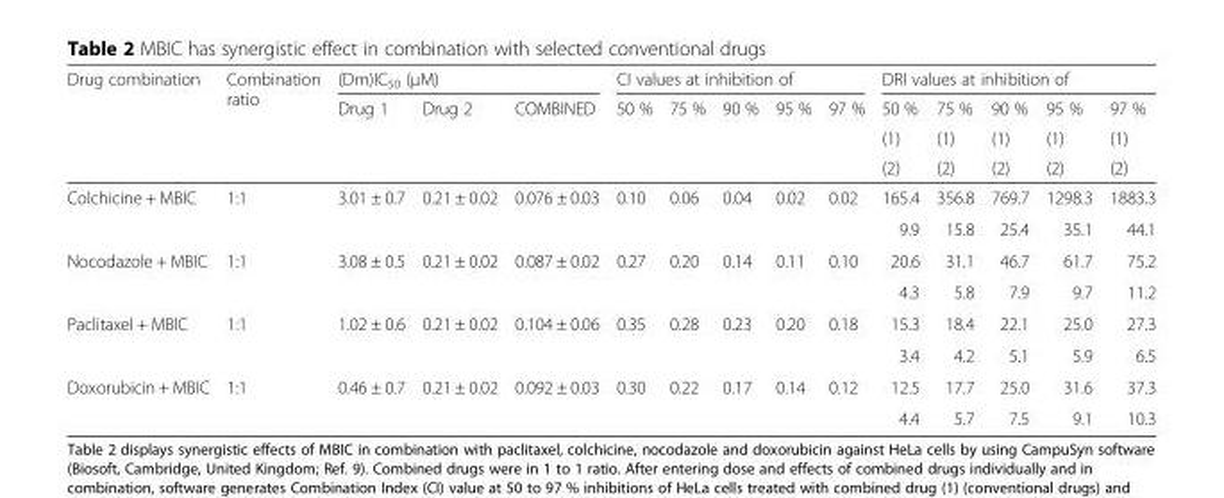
<table><thead><tr><td rowspan="4">Drug combination</td><td rowspan="4">Combination ratio</td><td colspan="3">(Dm)IC<sub>50</sub> (μM)</td><td colspan="5">CI values at inhibition of</td><td colspan="5">DRI values at inhibition of</td></tr><tr><td rowspan="3">Drug 1</td><td rowspan="3">Drug 2</td><td rowspan="3">COMBINED</td><td rowspan="3">50 %</td><td rowspan="3">75 %</td><td rowspan="3">90 %</td><td rowspan="3">95 %</td><td rowspan="3">97 %</td><td rowspan="3">50 % (1) (2)</td><td rowspan="3">75 % (1) (2)</td><td rowspan="3">90 % (1) (2)</td><td rowspan="3">95 % (1) (2)</td><td rowspan="3">97 % (1) (2)</td></tr><tr></tr><tr></tr></thead><tbody><tr><td rowspan="2">Colchicine + MBIC</td><td rowspan="2">1:1</td><td rowspan="2">3.01 ± 0.7</td><td rowspan="2">0.21 ± 0.02</td><td rowspan="2">0.076 ± 0.03</td><td rowspan="2">0.10</td><td rowspan="2">0.06</td><td rowspan="2">0.04</td><td rowspan="2">0.02</td><td rowspan="2">0.02</td><td>165.4</td><td>356.8</td><td>769.7</td><td>1298.3</td><td>1883.3</td></tr><tr><td>9.9</td><td>15.8</td><td>25.4</td><td>35.1</td><td>44.1</td></tr><tr><td rowspan="2">Nocodazole + MBIC</td><td rowspan="2">1:1</td><td rowspan="2">3.08 ± 0.5</td><td rowspan="2">0.21 ± 0.02</td><td rowspan="2">0.087 ± 0.02</td><td rowspan="2">0.27</td><td rowspan="2">0.20</td><td rowspan="2">0.14</td><td rowspan="2">0.11</td><td rowspan="2">0.10</td><td>20.6</td><td>31.1</td><td>46.7</td><td>61.7</td><td>75.2</td></tr><tr><td>4.3</td><td>5.8</td><td>7.9</td><td>9.7</td><td>11.2</td></tr><tr><td rowspan="2">Paclitaxel + MBIC</td><td rowspan="2">1:1</td><td rowspan="2">1.02 ± 0.6</td><td rowspan="2">0.21 ± 0.02</td><td rowspan="2">0.104 ± 0.06</td><td rowspan="2">0.35</td><td rowspan="2">0.28</td><td rowspan="2">0.23</td><td rowspan="2">0.20</td><td rowspan="2">0.18</td><td>15.3</td><td>18.4</td><td>22.1</td><td>25.0</td><td>27.3</td></tr><tr><td>3.4</td><td>4.2</td><td>5.1</td><td>5.9</td><td>6.5</td></tr><tr><td rowspan="2">Doxorubicin + MBIC</td><td rowspan="2">1:1</td><td rowspan="2">0.46 ± 0.7</td><td rowspan="2">0.21 ± 0.02</td><td rowspan="2">0.092 ± 0.03</td><td rowspan="2">0.30</td><td rowspan="2">0.22</td><td rowspan="2">0.17</td><td rowspan="2">0.14</td><td rowspan="2">0.12</td><td>12.5</td><td>17.7</td><td>25.0</td><td>31.6</td><td>37.3</td></tr><tr><td>4.4</td><td>5.7</td><td>7.5</td><td>9.1</td><td>10.3</td></tr></tbody></table>